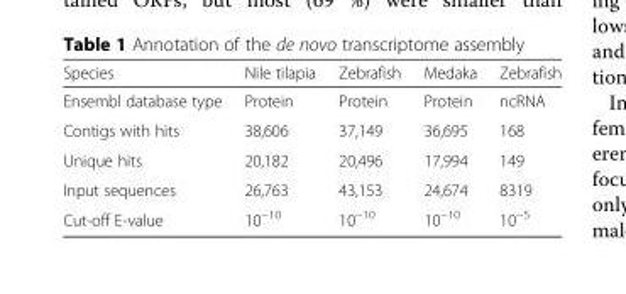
<table><thead><tr><td>Species</td><td>Nile tilapia</td><td>Zebrafish</td><td>Medaka</td><td>Zebrafish</td></tr></thead><tbody><tr><td>Ensembl database type</td><td>Protein</td><td>Protein</td><td>Protein</td><td>ncRNA</td></tr><tr><td>Contigs with hits</td><td>38,606</td><td>37,149</td><td>36,695</td><td>168</td></tr><tr><td>Unique hits</td><td>20,182</td><td>20,496</td><td>17,994</td><td>149</td></tr><tr><td>Input sequences</td><td>26,763</td><td>43,153</td><td>24,674</td><td>8319</td></tr><tr><td>Cut-off E-value</td><td>10<sup>−10</sup></td><td>10<sup>−10</sup></td><td>10<sup>−10</sup></td><td>10<sup>−5</sup></td></tr></tbody></table>